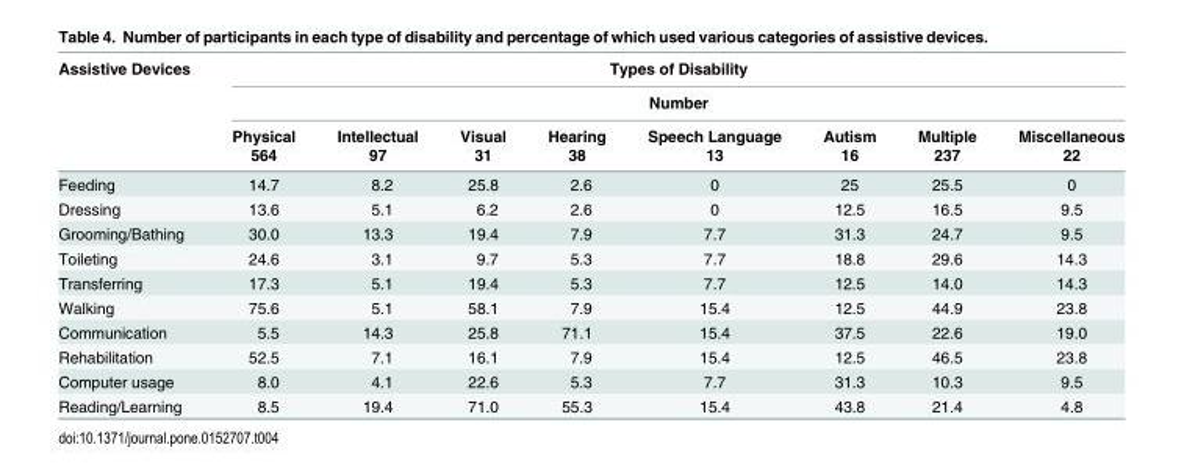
<table><thead><tr><td rowspan="4">Assistive Devices</td><td rowspan="2" colspan="8">Types of Disability Number</td></tr><tr></tr><tr><td rowspan="2">Physical 564</td><td rowspan="2">Intellectual 97</td><td rowspan="2">Visual 31</td><td rowspan="2">Hearing 38</td><td rowspan="2">Speech Language 13</td><td rowspan="2">Autism 16</td><td rowspan="2">Multiple 237</td><td rowspan="2">Miscellaneous 22</td></tr><tr></tr></thead><tbody><tr><td>Feeding</td><td>14.7</td><td>8.2</td><td>25.8</td><td>2.6</td><td>0</td><td>25</td><td>25.5</td><td>0</td></tr><tr><td>Dressing</td><td>13.6</td><td>5.1</td><td>6.2</td><td>2.6</td><td>0</td><td>12.5</td><td>16.5</td><td>9.5</td></tr><tr><td>Grooming/Bathing</td><td>30.0</td><td>13.3</td><td>19.4</td><td>7.9</td><td>7.7</td><td>31.3</td><td>24.7</td><td>9.5</td></tr><tr><td>Toileting</td><td>24.6</td><td>3.1</td><td>9.7</td><td>5.3</td><td>7.7</td><td>18.8</td><td>29.6</td><td>14.3</td></tr><tr><td>Transferring</td><td>17.3</td><td>5.1</td><td>19.4</td><td>5.3</td><td>7.7</td><td>12.5</td><td>14.0</td><td>14.3</td></tr><tr><td>Walking</td><td>75.6</td><td>5.1</td><td>58.1</td><td>7.9</td><td>15.4</td><td>12.5</td><td>44.9</td><td>23.8</td></tr><tr><td>Communication</td><td>5.5</td><td>14.3</td><td>25.8</td><td>71.1</td><td>15.4</td><td>37.5</td><td>22.6</td><td>19.0</td></tr><tr><td>Rehabilitation</td><td>52.5</td><td>7.1</td><td>16.1</td><td>7.9</td><td>15.4</td><td>12.5</td><td>46.5</td><td>23.8</td></tr><tr><td>Computer usage</td><td>8.0</td><td>4.1</td><td>22.6</td><td>5.3</td><td>7.7</td><td>31.3</td><td>10.3</td><td>9.5</td></tr><tr><td>Reading/Learning</td><td>8.5</td><td>19.4</td><td>71.0</td><td>55.3</td><td>15.4</td><td>43.8</td><td>21.4</td><td>4.8</td></tr></tbody></table>